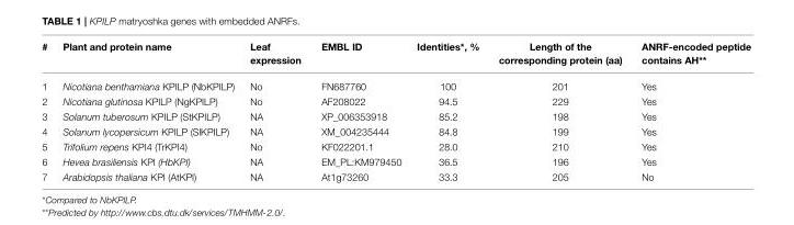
<table><thead><tr><td>#</td><td>Plant and protein name</td><td>Leaf expression</td><td>EMBL ID</td><td>Identities*, %</td><td>Length of the corresponding protein (aa)</td><td>ANRF-encoded peptide contains AH**</td></tr></thead><tbody><tr><td>1</td><td>Nicotiana benthamiana KPILP (NbKPILP)</td><td>No</td><td>FN687760</td><td>100</td><td>201</td><td>Yes</td></tr><tr><td>2</td><td>Nicotiana glutinosa KPILP (NgKPILP)</td><td>No</td><td>AF208022</td><td>94.5</td><td>229</td><td>Yes</td></tr><tr><td>3</td><td>Solanum tuberosum KPILP (StKPILP)</td><td>NA</td><td>XP_006353918</td><td>85.2</td><td>198</td><td>Yes</td></tr><tr><td>4</td><td>Solanum lycopersicum KPILP (SlKPILP)</td><td>NA</td><td>XM_004235444</td><td>84.8</td><td>199</td><td>Yes</td></tr><tr><td>5</td><td>Trifolium repens KPI4 (TrKPI4)</td><td>No</td><td>KF022201.1</td><td>28.0</td><td>210</td><td>Yes</td></tr><tr><td>6</td><td>Hevea brasiliensis KPI (HbKPI)</td><td>NA</td><td>EM_PL:KM979450</td><td>36.5</td><td>196</td><td>Yes</td></tr><tr><td>7</td><td>Arabidopsis thaliana KPI (AtKPI)</td><td>NA</td><td>At1g73260</td><td>33.3</td><td>205</td><td>No</td></tr></tbody></table>